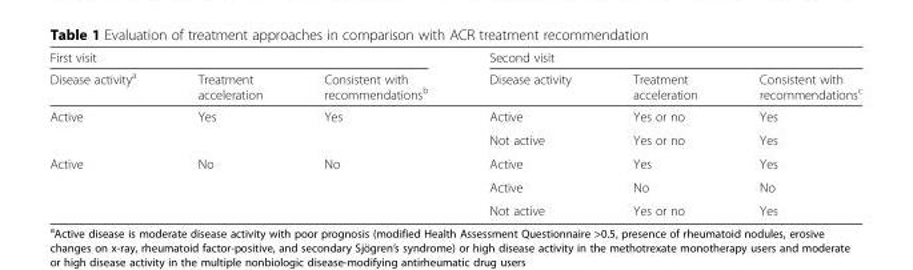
<table><thead><tr><td colspan="3">First visit</td><td colspan="3">Second visit</td></tr><tr><td>Disease activity<sup>a</sup></td><td>Treatment acceleration</td><td>Consistent with recommendations<sup>b</sup></td><td>Disease activity</td><td>Treatment acceleration</td><td>Consistent with recommendations<sup>c</sup></td></tr></thead><tbody><tr><td rowspan="2">Active</td><td rowspan="2">Yes</td><td rowspan="2">Yes</td><td>Active</td><td>Yes or no</td><td>Yes</td></tr><tr><td>Not active</td><td>Yes or no</td><td>Yes</td></tr><tr><td rowspan="3">Active</td><td rowspan="3">No</td><td rowspan="3">No</td><td>Active</td><td>Yes</td><td>Yes</td></tr><tr><td>Active</td><td>No</td><td>No</td></tr><tr><td>Not active</td><td>Yes or no</td><td>Yes</td></tr></tbody></table>